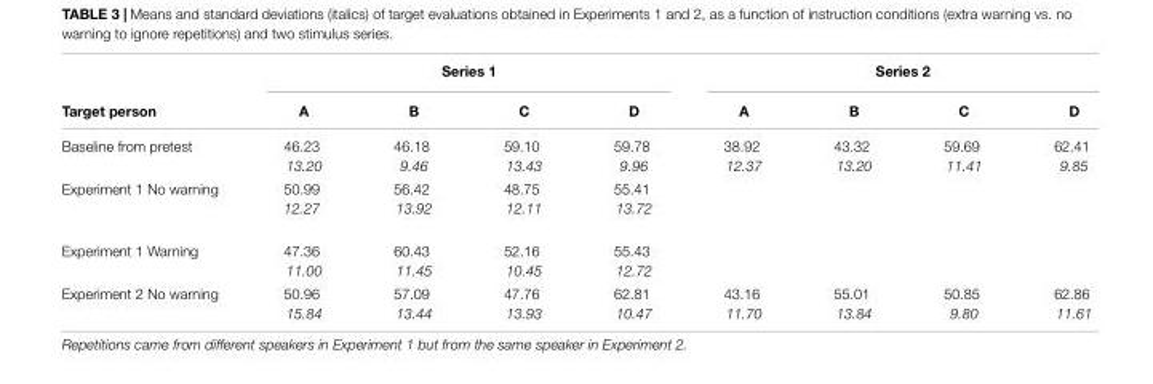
<table><thead><tr><td rowspan="2">Target person</td><td colspan="4">Series 1</td><td colspan="4">Series 2</td></tr><tr><td>A</td><td>B</td><td>C</td><td>D</td><td>A</td><td>B</td><td>C</td><td>D</td></tr></thead><tbody><tr><td>Baseline from pretest</td><td>46.23 13.20</td><td>46.18 9.46</td><td>59.10 13.43</td><td>59.78 9.96</td><td>38.92 12.37</td><td>43.32 13.20</td><td>59.69 11.41</td><td>62.41 9.85</td></tr><tr><td>Experiment 1 No warning</td><td>50.99 12.27</td><td>56.42 13.92</td><td>48.75 12.11</td><td>55.41 13.72</td><td></td><td></td><td></td><td></td></tr><tr><td>Experiment 1 Warning</td><td>47.36 11.00</td><td>60.43 11.45</td><td>52.16 10.45</td><td>55.43 12.72</td><td></td><td></td><td></td><td></td></tr><tr><td>Experiment 2 No warning</td><td>50.96 15.84</td><td>57.09 13.44</td><td>47.76 13.93</td><td>62.81 10.47</td><td>43.16 11.70</td><td>55.01 13.84</td><td>50.85 9.80</td><td>62.86 11.61</td></tr></tbody></table>